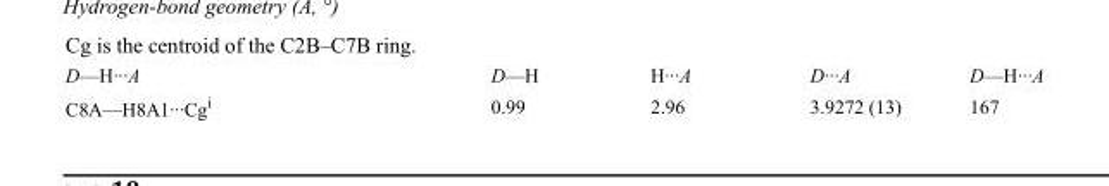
<table><tbody><tr><td>D—H···A</td><td>D—H</td><td>H···A</td><td>D···A</td><td>D—H···A</td></tr><tr><td>C8A—H8A1···Cg<sup>i</sup></td><td>0.99</td><td>2.96</td><td>3.9272 (13)</td><td>167</td></tr></tbody></table>